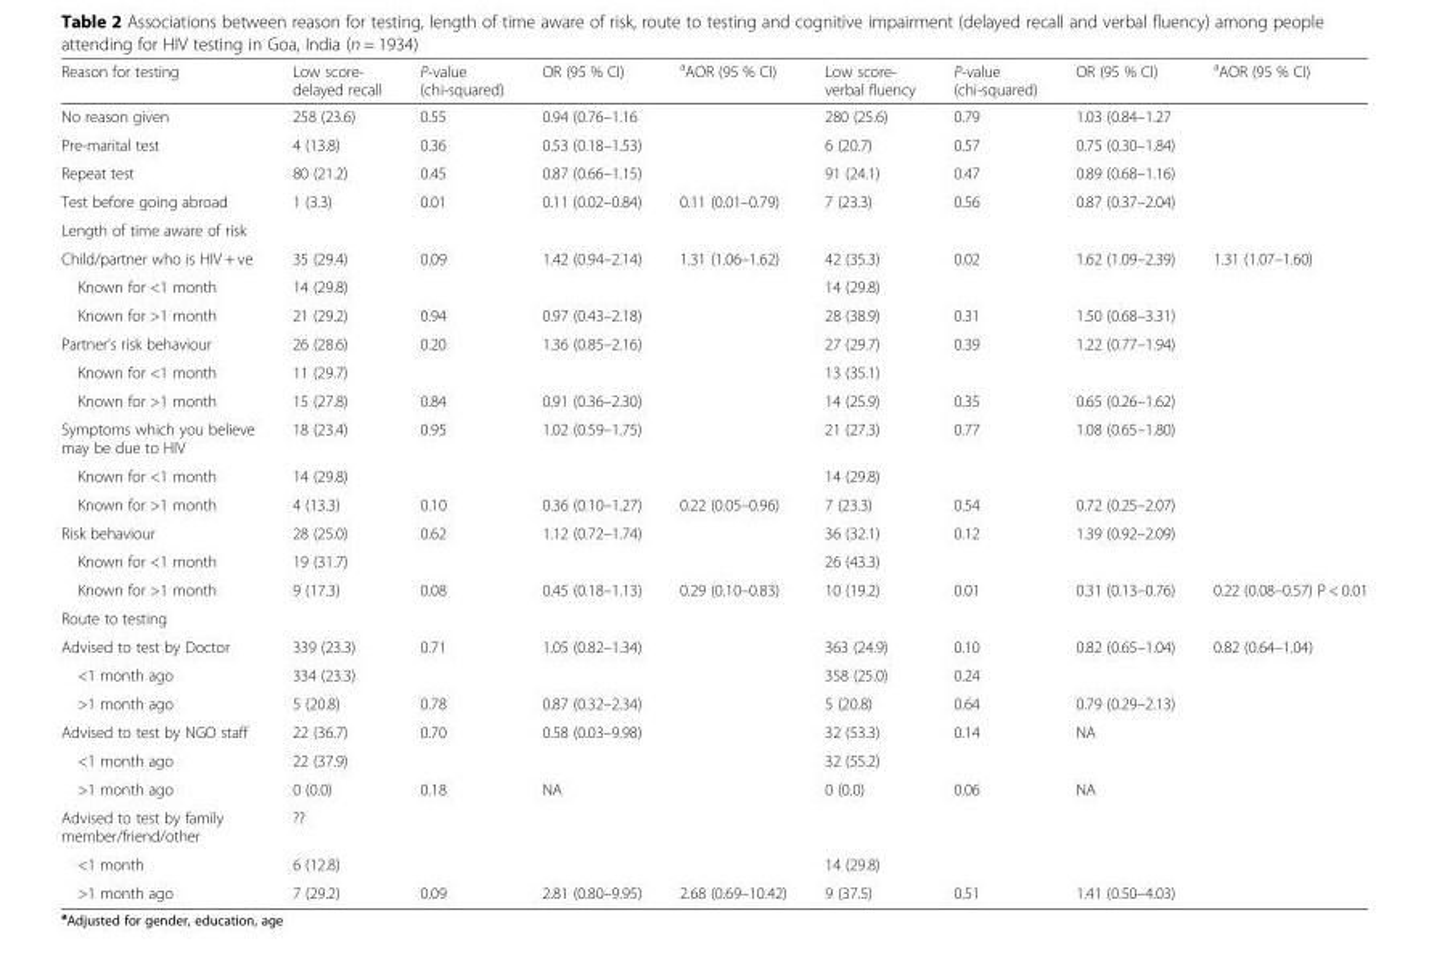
<table><thead><tr><td>Reason for testing</td><td>Low score- delayed recall</td><td>P-value (chi-squared)</td><td>OR (95 % CI)</td><td><sup>a</sup>AOR (95 % CI)</td><td>Low score- verbal fluency</td><td>P-value (chi-squared)</td><td>OR (95 % CI)</td><td><sup>a</sup>AOR (95 % CI)</td></tr></thead><tbody><tr><td>No reason given</td><td>258 (23.6)</td><td>0.55</td><td>0.94 (0.76–1.16</td><td></td><td>280 (25.6)</td><td>0.79</td><td>1.03 (0.84–1.27</td><td></td></tr><tr><td>Pre-marital test</td><td>4 (13.8)</td><td>0.36</td><td>0.53 (0.18–1.53)</td><td></td><td>6 (20.7)</td><td>0.57</td><td>0.75 (0.30–1.84)</td><td></td></tr><tr><td>Repeat test</td><td>80 (21.2)</td><td>0.45</td><td>0.87 (0.66–1.15)</td><td></td><td>91 (24.1)</td><td>0.47</td><td>0.89 (0.68–1.16)</td><td></td></tr><tr><td>Test before going abroad</td><td>1 (3.3)</td><td>0.01</td><td>0.11 (0.02–0.84)</td><td>0.11 (0.01–0.79)</td><td>7 (23.3)</td><td>0.56</td><td>0.87 (0.37–2.04)</td><td></td></tr><tr><td colspan="9">Length of time aware of risk</td></tr><tr><td>Child/partner who is HIV + ve</td><td>35 (29.4)</td><td>0.09</td><td>1.42 (0.94–2.14)</td><td>1.31 (1.06–1.62)</td><td>42 (35.3)</td><td>0.02</td><td>1.62 (1.09–2.39)</td><td>1.31 (1.07–1.60)</td></tr><tr><td>Known for &lt;1 month</td><td>14 (29.8)</td><td></td><td></td><td></td><td>14 (29.8)</td><td></td><td></td><td></td></tr><tr><td>Known for &gt;1 month</td><td>21 (29.2)</td><td>0.94</td><td>0.97 (0.43–2.18)</td><td></td><td>28 (38.9)</td><td>0.31</td><td>1.50 (0.68–3.31)</td><td></td></tr><tr><td>Partner’s risk behaviour</td><td>26 (28.6)</td><td>0.20</td><td>1.36 (0.85–2.16)</td><td></td><td>27 (29.7)</td><td>0.39</td><td>1.22 (0.77–1.94)</td><td></td></tr><tr><td>Known for &lt;1 month</td><td>11 (29.7)</td><td></td><td></td><td></td><td>13 (35.1)</td><td></td><td></td><td></td></tr><tr><td>Known for &gt;1 month</td><td>15 (27.8)</td><td>0.84</td><td>0.91 (0.36–2.30)</td><td></td><td>14 (25.9)</td><td>0.35</td><td>0.65 (0.26–1.62)</td><td></td></tr><tr><td>Symptoms which you believe may be due to HIV</td><td>18 (23.4)</td><td>0.95</td><td>1.02 (0.59–1.75)</td><td></td><td>21 (27.3)</td><td>0.77</td><td>1.08 (0.65–1.80)</td><td></td></tr><tr><td>Known for &lt;1 month</td><td>14 (29.8)</td><td></td><td></td><td></td><td>14 (29.8)</td><td></td><td></td><td></td></tr><tr><td>Known for &gt;1 month</td><td>4 (13.3)</td><td>0.10</td><td>0.36 (0.10–1.27)</td><td>0.22 (0.05–0.96)</td><td>7 (23.3)</td><td>0.54</td><td>0.72 (0.25–2.07)</td><td></td></tr><tr><td>Risk behaviour</td><td>28 (25.0)</td><td>0.62</td><td>1.12 (0.72–1.74)</td><td></td><td>36 (32.1)</td><td>0.12</td><td>1.39 (0.92–2.09)</td><td></td></tr><tr><td>Known for &lt;1 month</td><td>19 (31.7)</td><td></td><td></td><td></td><td>26 (43.3)</td><td></td><td></td><td></td></tr><tr><td>Known for &gt;1 month</td><td>9 (17.3)</td><td>0.08</td><td>0.45 (0.18–1.13)</td><td>0.29 (0.10–0.83)</td><td>10 (19.2)</td><td>0.01</td><td>0.31 (0.13–0.76)</td><td>0.22 (0.08–0.57) P &lt; 0.01</td></tr><tr><td colspan="9">Route to testing</td></tr><tr><td>Advised to test by Doctor</td><td>339 (23.3)</td><td>0.71</td><td>1.05 (0.82–1.34)</td><td></td><td>363 (24.9)</td><td>0.10</td><td>0.82 (0.65–1.04)</td><td>0.82 (0.64–1.04)</td></tr><tr><td>&lt;1 month ago</td><td>334 (23.3)</td><td></td><td></td><td></td><td>358 (25.0)</td><td>0.24</td><td></td><td></td></tr><tr><td>&gt;1 month ago</td><td>5 (20.8)</td><td>0.78</td><td>0.87 (0.32–2.34)</td><td></td><td>5 (20.8)</td><td>0.64</td><td>0.79 (0.29–2.13)</td><td></td></tr><tr><td>Advised to test by NGO staff</td><td>22 (36.7)</td><td>0.70</td><td>0.58 (0.03–9.98)</td><td></td><td>32 (53.3)</td><td>0.14</td><td>NA</td><td></td></tr><tr><td>&lt;1 month ago</td><td>22 (37.9)</td><td></td><td></td><td></td><td>32 (55.2)</td><td></td><td></td><td></td></tr><tr><td>&gt;1 month ago</td><td>0 (0.0)</td><td>0.18</td><td>NA</td><td></td><td>0 (0.0)</td><td>0.06</td><td>NA</td><td></td></tr><tr><td>Advised to test by family member/friend/other</td><td>??</td><td></td><td></td><td></td><td></td><td></td><td></td><td></td></tr><tr><td>&lt;1 month</td><td>6 (12.8)</td><td></td><td></td><td></td><td>14 (29.8)</td><td></td><td></td><td></td></tr><tr><td>&gt;1 month ago</td><td>7 (29.2)</td><td>0.09</td><td>2.81 (0.80–9.95)</td><td>2.68 (0.69–10.42)</td><td>9 (37.5)</td><td>0.51</td><td>1.41 (0.50–4.03)</td><td></td></tr></tbody></table>